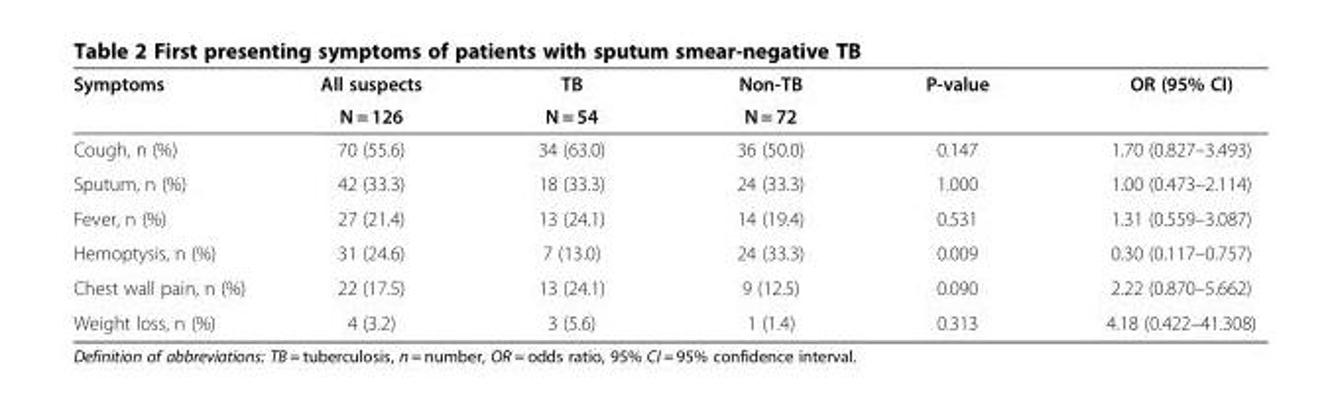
<table><thead><tr><td rowspan="2">Symptoms</td><td rowspan="2">All suspects N = 126</td><td rowspan="2">TB N = 54</td><td rowspan="2">Non-TB N = 72</td><td rowspan="2">P-value</td><td rowspan="2">OR (95% CI)</td></tr><tr></tr></thead><tbody><tr><td>Cough, n (%)</td><td>70 (55.6)</td><td>34 (63.0)</td><td>36 (50.0)</td><td>0.147</td><td>1.70 (0.827–3.493)</td></tr><tr><td>Sputum, n (%)</td><td>42 (33.3)</td><td>18 (33.3)</td><td>24 (33.3)</td><td>1.000</td><td>1.00 (0.473–2.114)</td></tr><tr><td>Fever, n (%)</td><td>27 (21.4)</td><td>13 (24.1)</td><td>14 (19.4)</td><td>0.531</td><td>1.31 (0.559–3.087)</td></tr><tr><td>Hemoptysis, n (%)</td><td>31 (24.6)</td><td>7 (13.0)</td><td>24 (33.3)</td><td>0.009</td><td>0.30 (0.117–0.757)</td></tr><tr><td>Chest wall pain, n (%)</td><td>22 (17.5)</td><td>13 (24.1)</td><td>9 (12.5)</td><td>0.090</td><td>2.22 (0.870–5.662)</td></tr><tr><td>Weight loss, n (%)</td><td>4 (3.2)</td><td>3 (5.6)</td><td>1 (1.4)</td><td>0.313</td><td>4.18 (0.422–41.308)</td></tr></tbody></table>